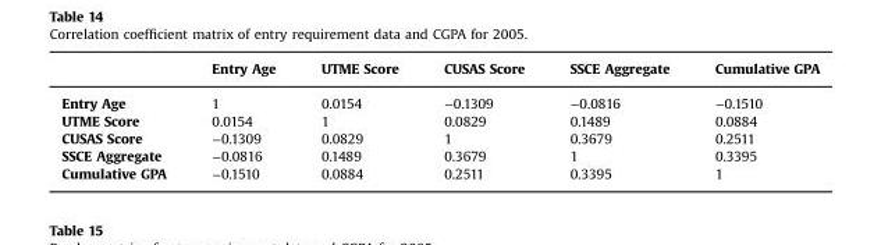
<table><thead><tr><td></td><td>Entry Age</td><td>UTME Score</td><td>CUSAS Score</td><td>SSCE Aggregate</td><td>Cumulative GPA</td></tr></thead><tbody><tr><td>Entry Age</td><td>1</td><td>0.0154</td><td>−0.1309</td><td>−0.0816</td><td>−0.1510</td></tr><tr><td>UTME Score</td><td>0.0154</td><td>1</td><td>0.0829</td><td>0.1489</td><td>0.0884</td></tr><tr><td>CUSAS Score</td><td>−0.1309</td><td>0.0829</td><td>1</td><td>0.3679</td><td>0.2511</td></tr><tr><td>SSCE Aggregate</td><td>−0.0816</td><td>0.1489</td><td>0.3679</td><td>1</td><td>0.3395</td></tr><tr><td>Cumulative GPA</td><td>−0.1510</td><td>0.0884</td><td>0.2511</td><td>0.3395</td><td>1</td></tr></tbody></table>